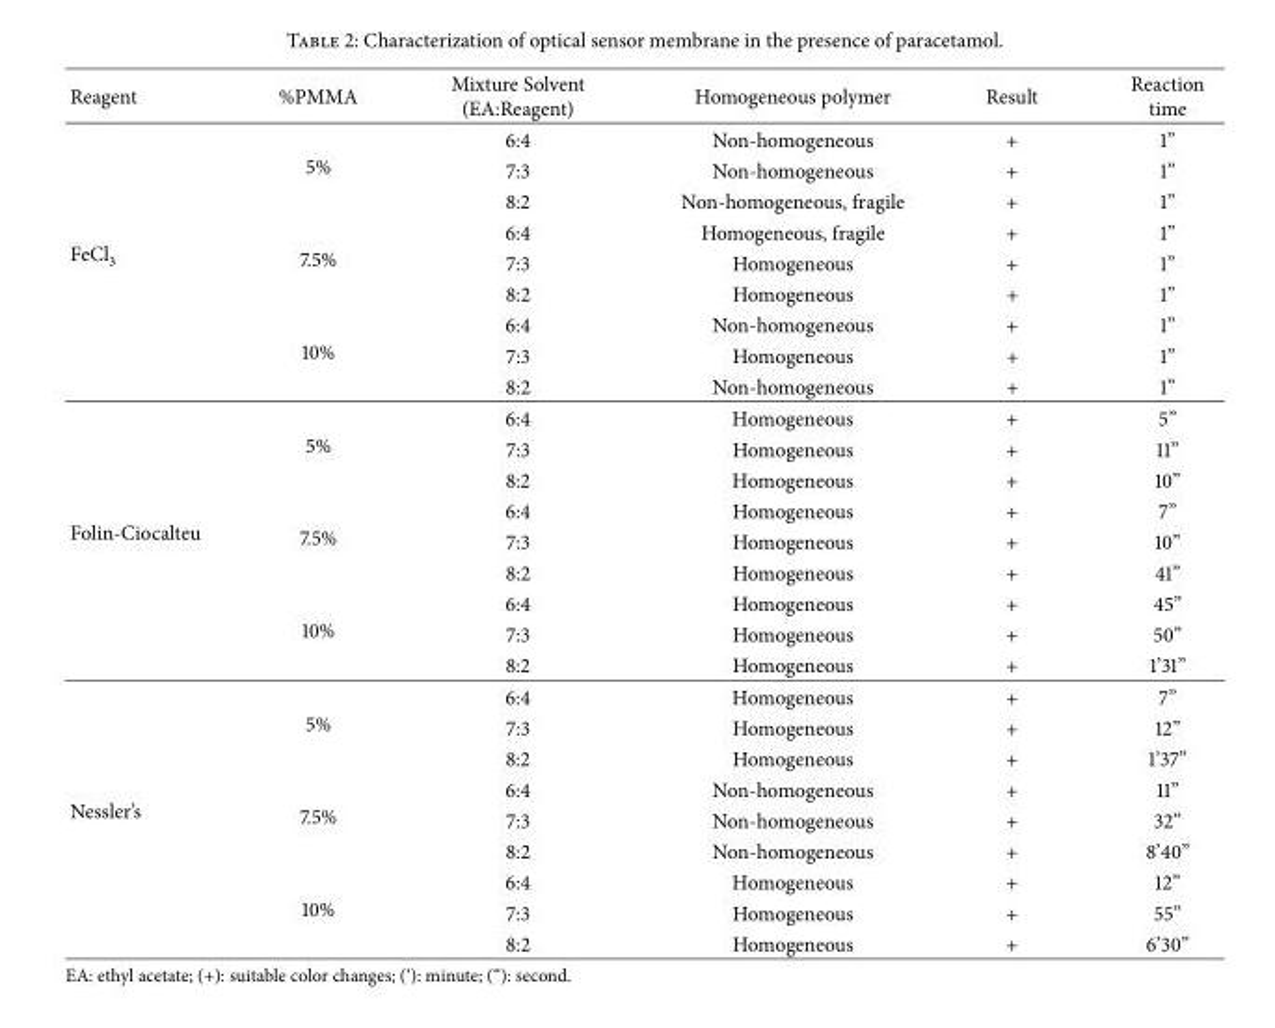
<table><thead><tr><td>Reagent</td><td>%PMMA</td><td>Mixture Solvent (EA:Reagent)</td><td>Homogeneous polymer</td><td>Result</td><td>Reaction time</td></tr></thead><tbody><tr><td rowspan="9">FeCl<sub>3</sub></td><td rowspan="3">5%</td><td>6:4</td><td>Non-homogeneous</td><td>+</td><td>1”</td></tr><tr><td>7:3</td><td>Non-homogeneous</td><td>+</td><td>1”</td></tr><tr><td>8:2</td><td>Non-homogeneous, fragile</td><td>+</td><td>1”</td></tr><tr><td rowspan="3">7.5%</td><td>6:4</td><td>Homogeneous, fragile</td><td>+</td><td>1”</td></tr><tr><td>7:3</td><td>Homogeneous</td><td>+</td><td>1”</td></tr><tr><td>8:2</td><td>Homogeneous</td><td>+</td><td>1”</td></tr><tr><td rowspan="3">10%</td><td>6:4</td><td>Non-homogeneous</td><td>+</td><td>1”</td></tr><tr><td>7:3</td><td>Homogeneous</td><td>+</td><td>1”</td></tr><tr><td>8:2</td><td>Non-homogeneous</td><td>+</td><td>1”</td></tr><tr><td rowspan="9">Folin-Ciocalteu</td><td rowspan="3">5%</td><td>6:4</td><td>Homogeneous</td><td>+</td><td>5”</td></tr><tr><td>7:3</td><td>Homogeneous</td><td>+</td><td>11”</td></tr><tr><td>8:2</td><td>Homogeneous</td><td>+</td><td>10”</td></tr><tr><td rowspan="3">7.5%</td><td>6:4</td><td>Homogeneous</td><td>+</td><td>7”</td></tr><tr><td>7:3</td><td>Homogeneous</td><td>+</td><td>10”</td></tr><tr><td>8:2</td><td>Homogeneous</td><td>+</td><td>41”</td></tr><tr><td rowspan="3">10%</td><td>6:4</td><td>Homogeneous</td><td>+</td><td>45”</td></tr><tr><td>7:3</td><td>Homogeneous</td><td>+</td><td>50”</td></tr><tr><td>8:2</td><td>Homogeneous</td><td>+</td><td>1’31”</td></tr><tr><td rowspan="9">Nessler’s</td><td rowspan="3">5%</td><td>6:4</td><td>Homogeneous</td><td>+</td><td>7”</td></tr><tr><td>7:3</td><td>Homogeneous</td><td>+</td><td>12”</td></tr><tr><td>8:2</td><td>Homogeneous</td><td>+</td><td>1’37”</td></tr><tr><td rowspan="3">7.5%</td><td>6:4</td><td>Non-homogeneous</td><td>+</td><td>11”</td></tr><tr><td>7:3</td><td>Non-homogeneous</td><td>+</td><td>32”</td></tr><tr><td>8:2</td><td>Non-homogeneous</td><td>+</td><td>8’40”</td></tr><tr><td rowspan="3">10%</td><td>6:4</td><td>Homogeneous</td><td>+</td><td>12”</td></tr><tr><td>7:3</td><td>Homogeneous</td><td>+</td><td>55”</td></tr><tr><td>8:2</td><td>Homogeneous</td><td>+</td><td>6’30”</td></tr></tbody></table>